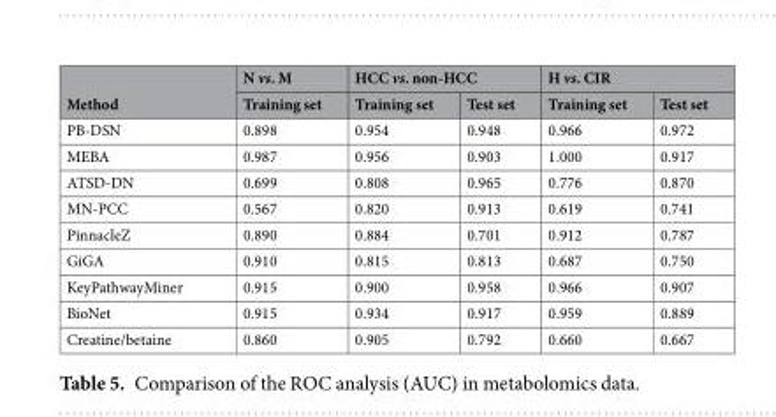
<table><thead><tr><td rowspan="2">Method</td><td rowspan="2">N vs. M Training set</td><td colspan="2">HCC vs. non-HCC</td><td colspan="2">H vs. CIR</td></tr><tr><td>Training set</td><td>Test set</td><td>Training set</td><td>Test set</td></tr></thead><tbody><tr><td>PB-DSN</td><td>0.898</td><td>0.954</td><td>0.948</td><td>0.966</td><td>0.972</td></tr><tr><td>MEBA</td><td>0.987</td><td>0.956</td><td>0.903</td><td>1.000</td><td>0.917</td></tr><tr><td>ATSD-DN</td><td>0.699</td><td>0.808</td><td>0.965</td><td>0.776</td><td>0.870</td></tr><tr><td>MN-PCC</td><td>0.567</td><td>0.820</td><td>0.913</td><td>0.619</td><td>0.741</td></tr><tr><td>PinnacleZ</td><td>0.890</td><td>0.884</td><td>0.701</td><td>0.912</td><td>0.787</td></tr><tr><td>GiGA</td><td>0.910</td><td>0.815</td><td>0.813</td><td>0.687</td><td>0.750</td></tr><tr><td>KeyPathwayMiner</td><td>0.915</td><td>0.900</td><td>0.958</td><td>0.966</td><td>0.907</td></tr><tr><td>BioNet</td><td>0.915</td><td>0.934</td><td>0.917</td><td>0.959</td><td>0.889</td></tr><tr><td>Creatine/betaine</td><td>0.860</td><td>0.905</td><td>0.792</td><td>0.660</td><td>0.667</td></tr></tbody></table>